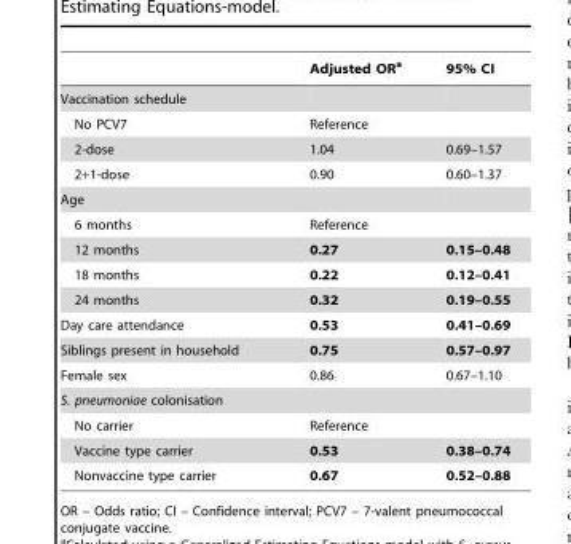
<table><thead><tr><td></td><td>Adjusted OR<sup>a</sup></td><td>95% CI</td></tr></thead><tbody><tr><td colspan="3">Vaccination schedule</td></tr><tr><td>No PCV7</td><td>Reference</td><td></td></tr><tr><td>2-dose</td><td>1.04</td><td>0.69–1.57</td></tr><tr><td>2+1-dose</td><td>0.90</td><td>0.60–1.37</td></tr><tr><td colspan="3">Age</td></tr><tr><td>6 months</td><td>Reference</td><td></td></tr><tr><td>12 months</td><td>0.27</td><td>0.15–0.48</td></tr><tr><td>18 months</td><td>0.22</td><td>0.12–0.41</td></tr><tr><td>24 months</td><td>0.32</td><td>0.19–0.55</td></tr><tr><td>Day care attendance</td><td>0.53</td><td>0.41–0.69</td></tr><tr><td>Siblings present in household</td><td>0.75</td><td>0.57–0.97</td></tr><tr><td>Female sex</td><td>0.86</td><td>0.67–1.10</td></tr><tr><td colspan="3">S. pneumoniae colonisation</td></tr><tr><td>No carrier</td><td>Reference</td><td></td></tr><tr><td>Vaccine type carrier</td><td>0.53</td><td>0.38–0.74</td></tr><tr><td>Nonvaccine type carrier</td><td>0.67</td><td>0.52–0.88</td></tr></tbody></table>